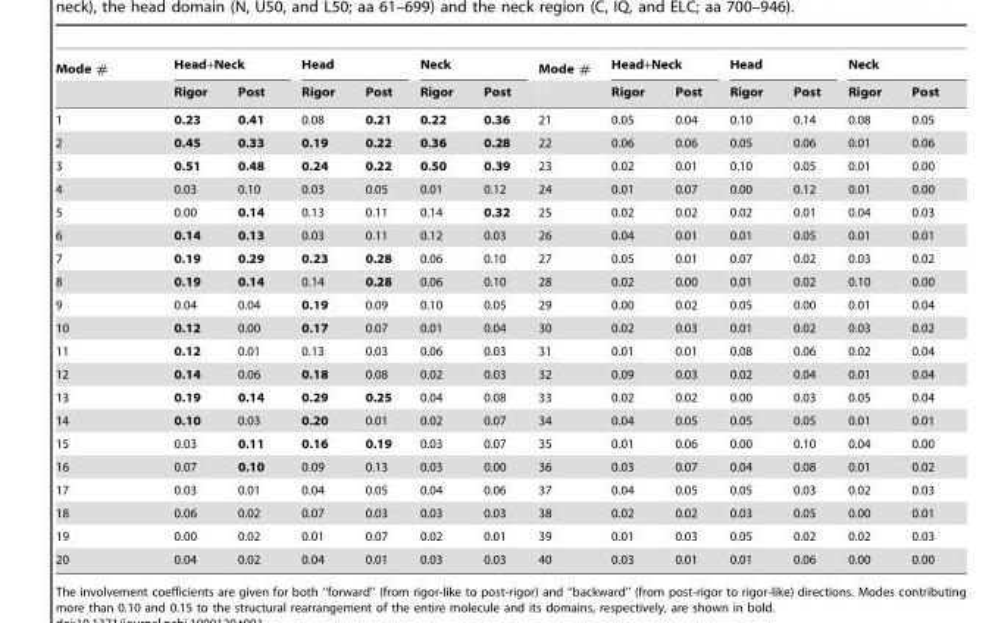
<table><thead><tr><td rowspan="2">Mode #</td><td colspan="2">Head+Neck</td><td colspan="2">Head</td><td colspan="2">Neck</td><td rowspan="2">Mode #</td><td colspan="2">Head+Neck</td><td colspan="2">Head</td><td colspan="2">Neck</td></tr><tr><td>Rigor</td><td>Post</td><td>Rigor</td><td>Post</td><td>Rigor</td><td>Post</td><td>Rigor</td><td>Post</td><td>Rigor</td><td>Post</td><td>Rigor</td><td>Post</td></tr></thead><tbody><tr><td>1</td><td>0.23</td><td>0.41</td><td>0.08</td><td>0.21</td><td>0.22</td><td>0.36</td><td>21</td><td>0.05</td><td>0.04</td><td>0.10</td><td>0.14</td><td>0.08</td><td>0.05</td></tr><tr><td>2</td><td>0.45</td><td>0.33</td><td>0.19</td><td>0.22</td><td>0.36</td><td>0.28</td><td>22</td><td>0.06</td><td>0.06</td><td>0.05</td><td>0.06</td><td>0.01</td><td>0.06</td></tr><tr><td>3</td><td>0.51</td><td>0.48</td><td>0.24</td><td>0.22</td><td>0.50</td><td>0.39</td><td>23</td><td>0.02</td><td>0.01</td><td>0.10</td><td>0.05</td><td>0.01</td><td>0.00</td></tr><tr><td>4</td><td>0.03</td><td>0.10</td><td>0.03</td><td>0.05</td><td>0.01</td><td>0.12</td><td>24</td><td>0.01</td><td>0.07</td><td>0.00</td><td>0.12</td><td>0.01</td><td>0.00</td></tr><tr><td>5</td><td>0.00</td><td>0.14</td><td>0.13</td><td>0.11</td><td>0.14</td><td>0.32</td><td>25</td><td>0.02</td><td>0.02</td><td>0.02</td><td>0.01</td><td>0.04</td><td>0.03</td></tr><tr><td>6</td><td>0.14</td><td>0.13</td><td>0.03</td><td>0.11</td><td>0.12</td><td>0.03</td><td>26</td><td>0.04</td><td>0.01</td><td>0.01</td><td>0.05</td><td>0.01</td><td>0.01</td></tr><tr><td>7</td><td>0.19</td><td>0.29</td><td>0.23</td><td>0.28</td><td>0.06</td><td>0.10</td><td>27</td><td>0.05</td><td>0.01</td><td>0.07</td><td>0.02</td><td>0.03</td><td>0.02</td></tr><tr><td>8</td><td>0.19</td><td>0.14</td><td>0.14</td><td>0.28</td><td>0.06</td><td>0.10</td><td>28</td><td>0.02</td><td>0.00</td><td>0.01</td><td>0.02</td><td>0.10</td><td>0.00</td></tr><tr><td>9</td><td>0.04</td><td>0.04</td><td>0.19</td><td>0.09</td><td>0.10</td><td>0.05</td><td>29</td><td>0.00</td><td>0.02</td><td>0.05</td><td>0.00</td><td>0.01</td><td>0.04</td></tr><tr><td>10</td><td>0.12</td><td>0.00</td><td>0.17</td><td>0.07</td><td>0.01</td><td>0.04</td><td>30</td><td>0.02</td><td>0.03</td><td>0.01</td><td>0.02</td><td>0.03</td><td>0.02</td></tr><tr><td>11</td><td>0.12</td><td>0.01</td><td>0.13</td><td>0.03</td><td>0.06</td><td>0.03</td><td>31</td><td>0.01</td><td>0.01</td><td>0.08</td><td>0.06</td><td>0.02</td><td>0.04</td></tr><tr><td>12</td><td>0.14</td><td>0.06</td><td>0.18</td><td>0.08</td><td>0.02</td><td>0.03</td><td>32</td><td>0.09</td><td>0.03</td><td>0.02</td><td>0.04</td><td>0.01</td><td>0.04</td></tr><tr><td>13</td><td>0.19</td><td>0.14</td><td>0.29</td><td>0.25</td><td>0.04</td><td>0.08</td><td>33</td><td>0.02</td><td>0.02</td><td>0.00</td><td>0.03</td><td>0.05</td><td>0.04</td></tr><tr><td>14</td><td>0.10</td><td>0.03</td><td>0.20</td><td>0.01</td><td>0.02</td><td>0.07</td><td>34</td><td>0.04</td><td>0.05</td><td>0.05</td><td>0.05</td><td>0.01</td><td>0.01</td></tr><tr><td>15</td><td>0.03</td><td>0.11</td><td>0.16</td><td>0.19</td><td>0.03</td><td>0.07</td><td>35</td><td>0.01</td><td>0.06</td><td>0.00</td><td>0.10</td><td>0.04</td><td>0.00</td></tr><tr><td>16</td><td>0.07</td><td>0.10</td><td>0.09</td><td>0.13</td><td>0.03</td><td>0.00</td><td>36</td><td>0.03</td><td>0.07</td><td>0.04</td><td>0.08</td><td>0.01</td><td>0.02</td></tr><tr><td>17</td><td>0.03</td><td>0.01</td><td>0.04</td><td>0.05</td><td>0.04</td><td>0.06</td><td>37</td><td>0.04</td><td>0.05</td><td>0.05</td><td>0.03</td><td>0.02</td><td>0.03</td></tr><tr><td>18</td><td>0.06</td><td>0.02</td><td>0.07</td><td>0.03</td><td>0.03</td><td>0.03</td><td>38</td><td>0.02</td><td>0.02</td><td>0.03</td><td>0.05</td><td>0.00</td><td>0.01</td></tr><tr><td>19</td><td>0.00</td><td>0.02</td><td>0.01</td><td>0.07</td><td>0.02</td><td>0.01</td><td>39</td><td>0.01</td><td>0.03</td><td>0.05</td><td>0.02</td><td>0.02</td><td>0.03</td></tr><tr><td>20</td><td>0.04</td><td>0.02</td><td>0.04</td><td>0.01</td><td>0.03</td><td>0.03</td><td>40</td><td>0.03</td><td>0.01</td><td>0.01</td><td>0.06</td><td>0.00</td><td>0.00</td></tr></tbody></table>